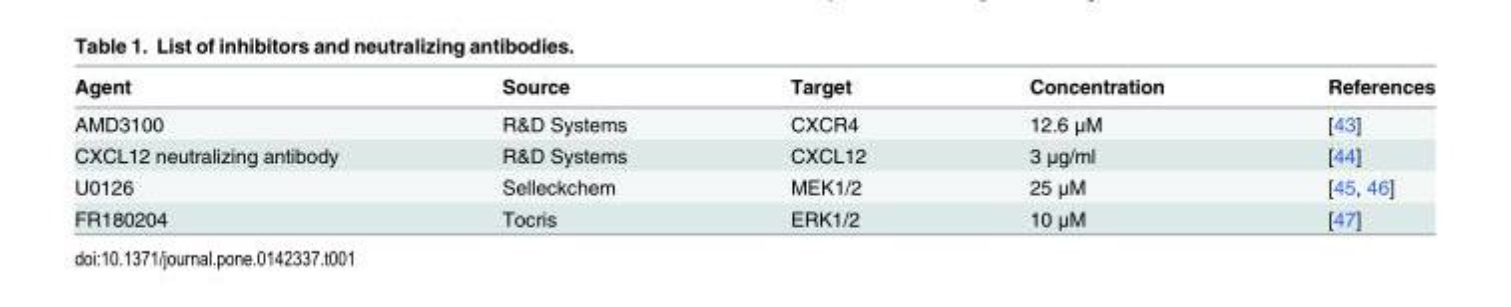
<table><thead><tr><td>Agent</td><td>Source</td><td>Target</td><td>Concentration</td><td>References</td></tr></thead><tbody><tr><td>AMD3100</td><td>R&amp;D Systems</td><td>CXCR4</td><td>12.6 μM</td><td>[43]</td></tr><tr><td>CXCL12 neutralizing antibody</td><td>R&amp;D Systems</td><td>CXCL12</td><td>3 μg/ml</td><td>[44]</td></tr><tr><td>U0126</td><td>Selleckchem</td><td>MEK1/2</td><td>25 μM</td><td>[45, 46]</td></tr><tr><td>FR180204</td><td>Tocris</td><td>ERK1/2</td><td>10 μM</td><td>[47]</td></tr></tbody></table>